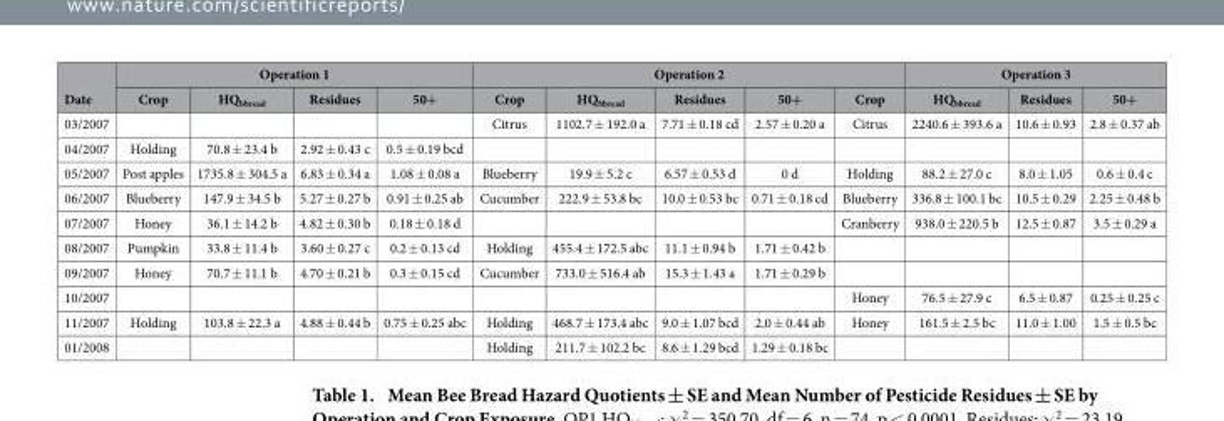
<table><thead><tr><td rowspan="2">Date</td><td colspan="4">Operation 1</td><td colspan="5">Operation 2</td><td colspan="3">Operation 3</td></tr><tr><td>Crop</td><td>HQ<sub>bbread</sub></td><td>Residues</td><td>50+</td><td>Crop</td><td>HQ<sub>bbread</sub></td><td>Residues</td><td>50+</td><td>Crop</td><td>HQ<sub>bbread</sub></td><td>Residues</td><td>50+</td></tr></thead><tbody><tr><td>03/2007</td><td></td><td></td><td></td><td></td><td>Citrus</td><td>1102.7 ± 192.0 a</td><td>7.71 ± 0.18 cd</td><td>2.57 ± 0.20 a</td><td>Citrus</td><td>2240.6 ± 393.6 a</td><td>10.6 ± 0.93</td><td>2.8 ± 0.37 ab</td></tr><tr><td>04/2007</td><td>Holding</td><td>70.8 ± 23.4 b</td><td>2.92 ± 0.43 c</td><td>0.5 ± 0.19 bcd</td><td></td><td></td><td></td><td></td><td></td><td></td><td></td><td></td></tr><tr><td>05/2007</td><td>Post apples</td><td>1735.8 ± 304.5 a</td><td>6.83 ± 0.34 a</td><td>1.08 ± 0.08 a</td><td>Blueberry</td><td>19.9 ± 5.2 c</td><td>6.57 ± 0.53 d</td><td>0 d</td><td>Holding</td><td>88.2 ± 27.0 c</td><td>8.0 ± 1.05</td><td>0.6 ± 0.4 c</td></tr><tr><td>06/2007</td><td>Blueberry</td><td>147.9 ± 34.5 b</td><td>5.27 ± 0.27 b</td><td>0.91 ± 0.25 ab</td><td>Cucumber</td><td>222.9 ± 53.8 bc</td><td>10.0 ± 0.53 bc</td><td>0.71 ± 0.18 cd</td><td>Blueberry</td><td>336.8 ± 100.1 bc</td><td>10.5 ± 0.29</td><td>2.25 ± 0.48 b</td></tr><tr><td>07/2007</td><td>Honey</td><td>36.1 ± 14.2 b</td><td>4.82 ± 0.30 b</td><td>0.18 ± 0.18 d</td><td></td><td></td><td></td><td></td><td>Cranberry</td><td>938.0 ± 220.5 b</td><td>12.5 ± 0.87</td><td>3.5 ± 0.29 a</td></tr><tr><td>08/2007</td><td>Pumpkin</td><td>33.8 ± 11.4 b</td><td>3.60 ± 0.27 c</td><td>0.2 ± 0.13 cd</td><td>Holding</td><td>455.4 ± 172.5 abc</td><td>11.1 ± 0.94 b</td><td>1.71 ± 0.42 b</td><td></td><td></td><td></td><td></td></tr><tr><td>09/2007</td><td>Honey</td><td>70.7 ± 11.1 b</td><td>4.70 ± 0.21 b</td><td>0.3 ± 0.15 cd</td><td>Cucumber</td><td>733.0 ± 516.4 ab</td><td>15.3 ± 1.43 a</td><td>1.71 ± 0.29 b</td><td></td><td></td><td></td><td></td></tr><tr><td>10/2007</td><td></td><td></td><td></td><td></td><td></td><td></td><td></td><td></td><td>Honey</td><td>76.5 ± 27.9 c</td><td>6.5 ± 0.87</td><td>0.25 ± 0.25 c</td></tr><tr><td>11/2007</td><td>Holding</td><td>103.8 ± 22.3 a</td><td>4.88 ± 0.44 b</td><td>0.75 ± 0.25 abc</td><td>Holding</td><td>468.7 ± 173.4 abc</td><td>9.0 ± 1.07 bcd</td><td>2.0 ± 0.44 ab</td><td>Honey</td><td>161.5 ± 2.5 bc</td><td>11.0 ± 1.00</td><td>1.5 ± 0.5 bc</td></tr><tr><td>01/2008</td><td></td><td></td><td></td><td></td><td>Holding</td><td>211.7 ± 102.2 bc</td><td>8.6 ± 1.29 bcd</td><td>1.29 ± 0.18 bc</td><td></td><td></td><td></td><td></td></tr></tbody></table>